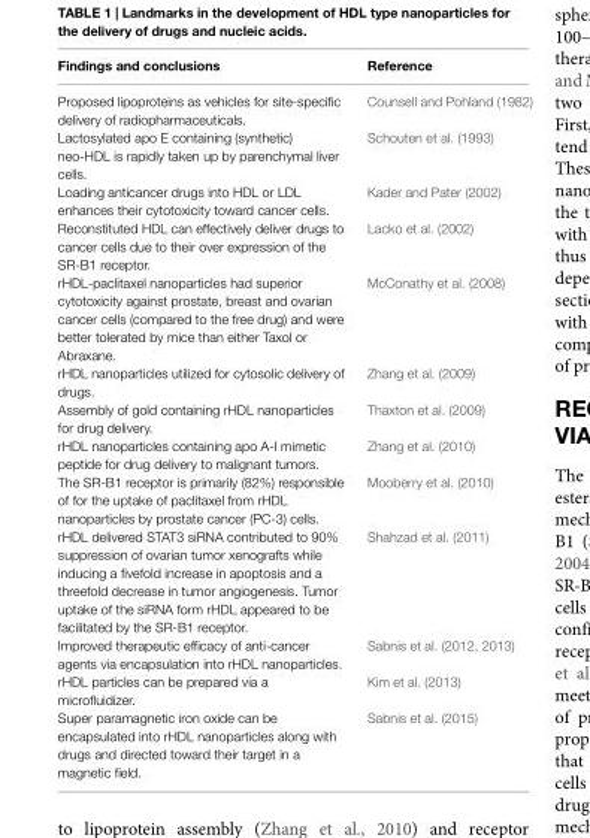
<table><thead><tr><td>Findings and conclusions</td><td>Reference</td></tr></thead><tbody><tr><td>Proposed lipoproteins as vehicles for site-specific delivery of radiopharmaceuticals.</td><td>Counsell and Pohland (1982)</td></tr><tr><td>Lactosylated apo E containing (synthetic) neo-HDL is rapidly taken up by parenchymal liver cells.</td><td>Schouten et al. (1993)</td></tr><tr><td>Loading anticancer drugs into HDL or LDL enhances their cytotoxicity toward cancer cells.</td><td>Kader and Pater (2002)</td></tr><tr><td>Reconstituted HDL can effectively deliver drugs to cancer cells due to their over expression of the SR-B1 receptor.</td><td>Lacko et al. (2002)</td></tr><tr><td>rHDL-paclitaxel nanoparticles had superior cytotoxicity against prostate, breast and ovarian cancer cells (compared to the free drug) and were better tolerated by mice than either Taxol or Abraxane.</td><td>McConathy et al. (2008)</td></tr><tr><td>rHDL nanoparticles utilized for cytosolic delivery of drugs.</td><td>Zhang et al. (2009)</td></tr><tr><td>Assembly of gold containing rHDL nanoparticles for drug delivery.</td><td>Thaxton et al. (2009)</td></tr><tr><td>rHDL nanoparticles containing apo A-I mimetic peptide for drug delivery to malignant tumors.</td><td>Zhang et al. (2010)</td></tr><tr><td>The SR-B1 receptor is primarily (82%) responsible of for the uptake of paclitaxel from rHDL nanoparticles by prostate cancer (PC-3) cells.</td><td>Mooberry et al. (2010)</td></tr><tr><td>rHDL delivered STAT3 siRNA contributed to 90% suppression of ovarian tumor xenografts while inducing a fivefold increase in apoptosis and a threefold decrease in tumor angiogenesis. Tumor uptake of the siRNA form rHDL appeared to be facilitated by the SR-B1 receptor.</td><td>Shahzad et al. (2011)</td></tr><tr><td>Improved therapeutic efficacy of anti-cancer agents via encapsulation into rHDL nanoparticles.</td><td>Sabnis et al. (2012, 2013)</td></tr><tr><td>rHDL particles can be prepared via a microfluidizer.</td><td>Kim et al. (2013)</td></tr><tr><td>Super paramagnetic iron oxide can be encapsulated into rHDL nanoparticles along with drugs and directed toward their target in a magnetic field.</td><td>Sabnis et al. (2015)</td></tr></tbody></table>